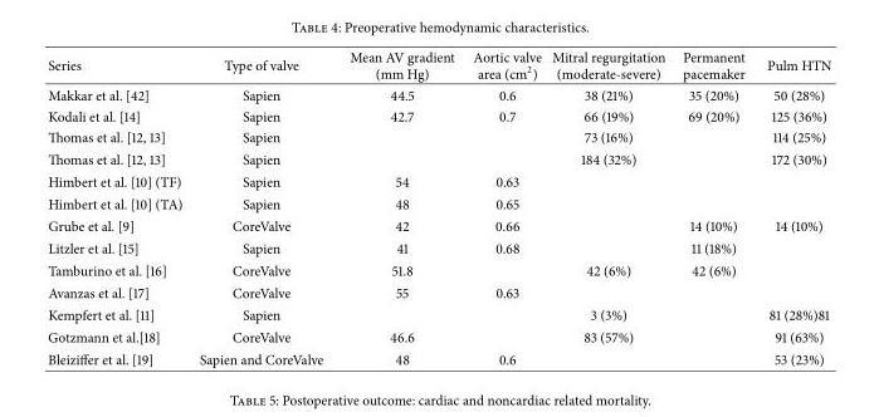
<table><thead><tr><td>Series</td><td>Type of valve</td><td>Mean AV gradient (mm Hg)</td><td>Aortic valve area (cm<sup>2</sup>)</td><td>Mitral regurgitation (moderate-severe)</td><td>Permanent pacemaker</td><td>Pulm HTN</td></tr></thead><tbody><tr><td>Makkar et al. [42]</td><td>Sapien</td><td>44.5</td><td>0.6</td><td>38 (21%)</td><td>35 (20%)</td><td>50 (28%)</td></tr><tr><td>Kodali et al. [14]</td><td>Sapien</td><td>42.7</td><td>0.7</td><td>66 (19%)</td><td>69 (20%)</td><td>125 (36%)</td></tr><tr><td>Thomas et al. [12, 13]</td><td>Sapien</td><td></td><td></td><td>73 (16%)</td><td></td><td>114 (25%)</td></tr><tr><td>Thomas et al. [12, 13]</td><td>Sapien</td><td></td><td></td><td>184 (32%)</td><td></td><td>172 (30%)</td></tr><tr><td>Himbert et al. [10] (TF)</td><td>Sapien</td><td>54</td><td>0.63</td><td></td><td></td><td></td></tr><tr><td>Himbert et al. [10] (TA)</td><td>Sapien</td><td>48</td><td>0.65</td><td></td><td></td><td></td></tr><tr><td>Grube et al. [9]</td><td>CoreValve</td><td>42</td><td>0.66</td><td></td><td>14 (10%)</td><td>14 (10%)</td></tr><tr><td>Litzler et al. [15]</td><td>Sapien</td><td>41</td><td>0.68</td><td></td><td>11 (18%)</td><td></td></tr><tr><td>Tamburino et al. [16]</td><td>CoreValve</td><td>51.8</td><td></td><td>42 (6%)</td><td>42 (6%)</td><td></td></tr><tr><td>Avanzas et al. [17]</td><td>CoreValve</td><td>55</td><td>0.63</td><td></td><td></td><td></td></tr><tr><td>Kempfert et al. [11]</td><td>Sapien</td><td></td><td></td><td>3 (3%)</td><td></td><td>81 (28%)81</td></tr><tr><td>Gotzmann et al.[18]</td><td>CoreValve</td><td>46.6</td><td></td><td>83 (57%)</td><td></td><td>91 (63%)</td></tr><tr><td>Bleiziffer et al. [19]</td><td>Sapien and CoreValve</td><td>48</td><td>0.6</td><td></td><td></td><td>53 (23%)</td></tr></tbody></table>